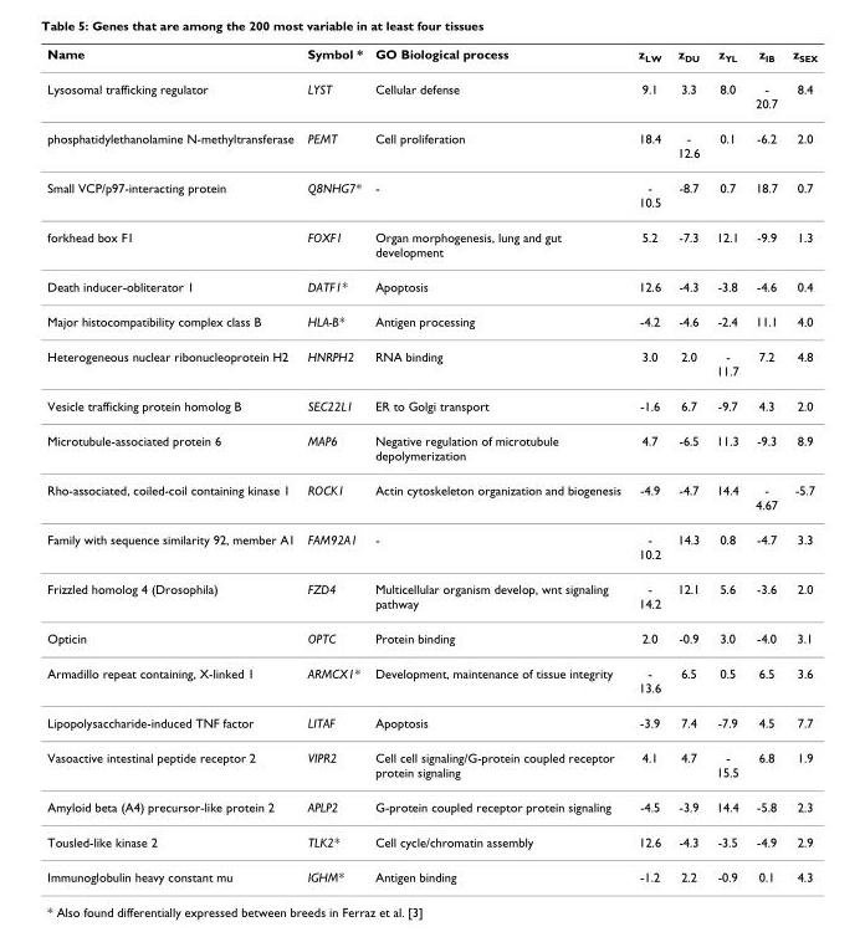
<table><thead><tr><td>Name</td><td>Symbol *</td><td>GO Biological process</td><td>z<sub>LW</sub></td><td>z<sub>DU</sub></td><td>z<sub>YL</sub></td><td>z<sub>IB</sub></td><td>z<sub>SEX</sub></td></tr></thead><tbody><tr><td>Lysosomal trafficking regulator</td><td>LYST</td><td>Cellular defense</td><td>9.1</td><td>3.3</td><td>8.0</td><td>- 20.7</td><td>8.4</td></tr><tr><td>phosphatidylethanolamine N-methyltransferase</td><td>PEMT</td><td>Cell proliferation</td><td>18.4</td><td>- 12.6</td><td>0.1</td><td>-6.2</td><td>2.0</td></tr><tr><td>Small VCP/p97-interacting protein</td><td>Q8NHG7*</td><td>-</td><td>- 10.5</td><td>-8.7</td><td>0.7</td><td>18.7</td><td>0.7</td></tr><tr><td>forkhead box F1</td><td>FOXF1</td><td>Organ morphogenesis, lung and gut development</td><td>5.2</td><td>-7.3</td><td>12.1</td><td>-9.9</td><td>1.3</td></tr><tr><td>Death inducer-obliterator 1</td><td>DATF1*</td><td>Apoptosis</td><td>12.6</td><td>-4.3</td><td>-3.8</td><td>-4.6</td><td>0.4</td></tr><tr><td>Major histocompatibility complex class B</td><td>HLA-B*</td><td>Antigen processing</td><td>-4.2</td><td>-4.6</td><td>-2.4</td><td>11.1</td><td>4.0</td></tr><tr><td>Heterogeneous nuclear ribonucleoprotein H2</td><td>HNRPH2</td><td>RNA binding</td><td>3.0</td><td>2.0</td><td>- 11.7</td><td>7.2</td><td>4.8</td></tr><tr><td>Vesicle trafficking protein homolog B</td><td>SEC22L1</td><td>ER to Golgi transport</td><td>-1.6</td><td>6.7</td><td>-9.7</td><td>4.3</td><td>2.0</td></tr><tr><td>Microtubule-associated protein 6</td><td>MAP6</td><td>Negative regulation of microtubule depolymerization</td><td>4.7</td><td>-6.5</td><td>11.3</td><td>-9.3</td><td>8.9</td></tr><tr><td>Rho-associated, coiled-coil containing kinase 1</td><td>ROCK1</td><td>Actin cytoskeleton organization and biogenesis</td><td>-4.9</td><td>-4.7</td><td>14.4</td><td>- 4.67</td><td>-5.7</td></tr><tr><td>Family with sequence similarity 92, member A1</td><td>FAM92A1</td><td>-</td><td>- 10.2</td><td>14.3</td><td>0.8</td><td>-4.7</td><td>3.3</td></tr><tr><td>Frizzled homolog 4 (Drosophila)</td><td>FZD4</td><td>Multicellular organism develop, wnt signaling pathway</td><td>- 14.2</td><td>12.1</td><td>5.6</td><td>-3.6</td><td>2.0</td></tr><tr><td>Opticin</td><td>OPTC</td><td>Protein binding</td><td>2.0</td><td>-0.9</td><td>3.0</td><td>-4.0</td><td>3.1</td></tr><tr><td>Armadillo repeat containing, X-linked 1</td><td>ARMCX1*</td><td>Development, maintenance of tissue integrity</td><td>- 13.6</td><td>6.5</td><td>0.5</td><td>6.5</td><td>3.6</td></tr><tr><td>Lipopolysaccharide-induced TNF factor</td><td>LITAF</td><td>Apoptosis</td><td>-3.9</td><td>7.4</td><td>-7.9</td><td>4.5</td><td>7.7</td></tr><tr><td>Vasoactive intestinal peptide receptor 2</td><td>VIPR2</td><td>Cell cell signaling/G-protein coupled receptor protein signaling</td><td>4.1</td><td>4.7</td><td>- 15.5</td><td>6.8</td><td>1.9</td></tr><tr><td>Amyloid beta (A4) precursor-like protein 2</td><td>APLP2</td><td>G-protein coupled receptor protein signaling</td><td>-4.5</td><td>-3.9</td><td>14.4</td><td>-5.8</td><td>2.3</td></tr><tr><td>Tousled-like kinase 2</td><td>TLK2*</td><td>Cell cycle/chromatin assembly</td><td>12.6</td><td>-4.3</td><td>-3.5</td><td>-4.9</td><td>2.9</td></tr><tr><td>Immunoglobulin heavy constant mu</td><td>IGHM*</td><td>Antigen binding</td><td>-1.2</td><td>2.2</td><td>-0.9</td><td>0.1</td><td>4.3</td></tr></tbody></table>